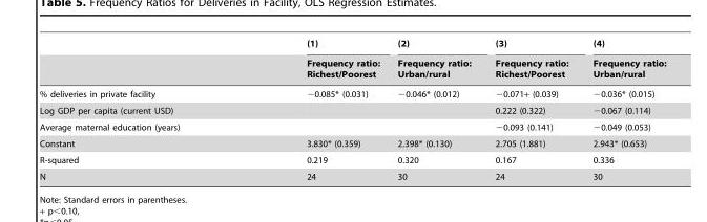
<table><thead><tr><td rowspan="2"></td><td rowspan="2">(1) Frequency ratio: Richest/Poorest</td><td rowspan="2">(2) Frequency ratio: Urban/rural</td><td rowspan="2">(3) Frequency ratio: Richest/Poorest</td><td rowspan="2">(4) Frequency ratio: Urban/rural</td></tr><tr></tr></thead><tbody><tr><td>% deliveries in private facility</td><td>−0.085* (0.031)</td><td>−0.046* (0.012)</td><td>−0.071+ (0.039)</td><td>−0.036* (0.015)</td></tr><tr><td>Log GDP per capita (current USD)</td><td></td><td></td><td>0.222 (0.322)</td><td>−0.067 (0.114)</td></tr><tr><td>Average maternal education (years)</td><td></td><td></td><td>−0.093 (0.141)</td><td>−0.049 (0.053)</td></tr><tr><td>Constant</td><td>3.830* (0.359)</td><td>2.398* (0.130)</td><td>2.705 (1.881)</td><td>2.943* (0.653)</td></tr><tr><td>R-squared</td><td>0.219</td><td>0.320</td><td>0.167</td><td>0.336</td></tr><tr><td>N</td><td>24</td><td>30</td><td>24</td><td>30</td></tr></tbody></table>